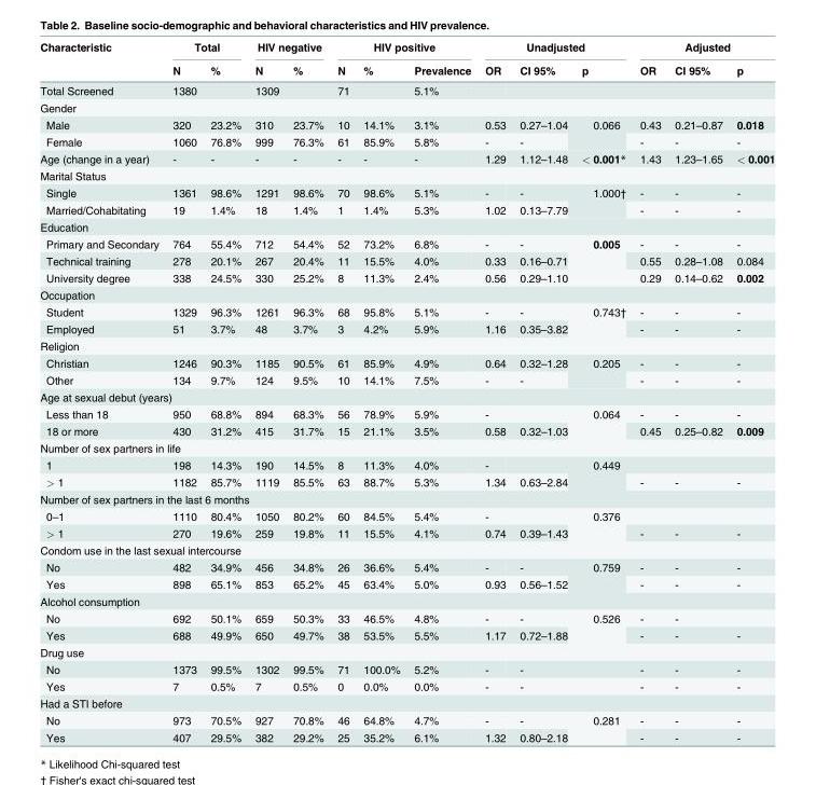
<table><thead><tr><td rowspan="2">Characteristic</td><td colspan="2">Total</td><td colspan="2">HIV negative</td><td colspan="3">HIV positive</td><td colspan="3">Unadjusted</td><td colspan="3">Adjusted</td></tr><tr><td>N</td><td>%</td><td>N</td><td>%</td><td>N</td><td>%</td><td>Prevalence</td><td>OR</td><td>CI 95%</td><td>p</td><td>OR</td><td>CI 95%</td><td>p</td></tr></thead><tbody><tr><td>Total Screened</td><td>1380</td><td></td><td>1309</td><td></td><td>71</td><td></td><td>5.1%</td><td></td><td></td><td></td><td></td><td></td><td></td></tr><tr><td colspan="14">Gender</td></tr><tr><td>Male</td><td>320</td><td>23.2%</td><td>310</td><td>23.7%</td><td>10</td><td>14.1%</td><td>3.1%</td><td>0.53</td><td>0.27–1.04</td><td rowspan="2">0.066</td><td>0.43</td><td>0.21–0.87</td><td>0.018</td></tr><tr><td>Female</td><td>1060</td><td>76.8%</td><td>999</td><td>76.3%</td><td>61</td><td>85.9%</td><td>5.8%</td><td>-</td><td>-</td><td>-</td><td>-</td><td>-</td></tr><tr><td>Age (change in a year)</td><td>-</td><td>-</td><td>-</td><td>-</td><td>-</td><td>-</td><td>-</td><td>1.29</td><td>1.12–1.48</td><td>&lt; 0.001*</td><td>1.43</td><td>1.23–1.65</td><td>&lt; 0.001</td></tr><tr><td colspan="14">Marital Status</td></tr><tr><td>Single</td><td>1361</td><td>98.6%</td><td>1291</td><td>98.6%</td><td>70</td><td>98.6%</td><td>5.1%</td><td>-</td><td>-</td><td rowspan="2">1.000†</td><td>-</td><td>-</td><td>-</td></tr><tr><td>Married/Cohabitating</td><td>19</td><td>1.4%</td><td>18</td><td>1.4%</td><td>1</td><td>1.4%</td><td>5.3%</td><td>1.02</td><td>0.13–7.79</td><td>-</td><td>-</td><td>-</td></tr><tr><td colspan="14">Education</td></tr><tr><td>Primary and Secondary</td><td>764</td><td>55.4%</td><td>712</td><td>54.4%</td><td>52</td><td>73.2%</td><td>6.8%</td><td>-</td><td>-</td><td rowspan="3">0.005</td><td>-</td><td>-</td><td>-</td></tr><tr><td>Technical training</td><td>278</td><td>20.1%</td><td>267</td><td>20.4%</td><td>11</td><td>15.5%</td><td>4.0%</td><td>0.33</td><td>0.16–0.71</td><td>0.55</td><td>0.28–1.08</td><td>0.084</td></tr><tr><td>University degree</td><td>338</td><td>24.5%</td><td>330</td><td>25.2%</td><td>8</td><td>11.3%</td><td>2.4%</td><td>0.56</td><td>0.29–1.10</td><td>0.29</td><td>0.14–0.62</td><td>0.002</td></tr><tr><td colspan="14">Occupation</td></tr><tr><td>Student</td><td>1329</td><td>96.3%</td><td>1261</td><td>96.3%</td><td>68</td><td>95.8%</td><td>5.1%</td><td>-</td><td>-</td><td rowspan="2">0.743†</td><td>-</td><td>-</td><td>-</td></tr><tr><td>Employed</td><td>51</td><td>3.7%</td><td>48</td><td>3.7%</td><td>3</td><td>4.2%</td><td>5.9%</td><td>1.16</td><td>0.35–3.82</td><td>-</td><td>-</td><td>-</td></tr><tr><td colspan="14">Religion</td></tr><tr><td>Christian</td><td>1246</td><td>90.3%</td><td>1185</td><td>90.5%</td><td>61</td><td>85.9%</td><td>4.9%</td><td>0.64</td><td>0.32–1.28</td><td rowspan="2">0.205</td><td>-</td><td>-</td><td>-</td></tr><tr><td>Other</td><td>134</td><td>9.7%</td><td>124</td><td>9.5%</td><td>10</td><td>14.1%</td><td>7.5%</td><td>-</td><td>-</td><td>-</td><td>-</td><td>-</td></tr><tr><td colspan="14">Age at sexual debut (years)</td></tr><tr><td>Less than 18</td><td>950</td><td>68.8%</td><td>894</td><td>68.3%</td><td>56</td><td>78.9%</td><td>5.9%</td><td>-</td><td></td><td rowspan="2">0.064</td><td>-</td><td>-</td><td>-</td></tr><tr><td>18 or more</td><td>430</td><td>31.2%</td><td>415</td><td>31.7%</td><td>15</td><td>21.1%</td><td>3.5%</td><td>0.58</td><td>0.32–1.03</td><td>0.45</td><td>0.25–0.82</td><td>0.009</td></tr><tr><td colspan="14">Number of sex partners in life</td></tr><tr><td>1</td><td>198</td><td>14.3%</td><td>190</td><td>14.5%</td><td>8</td><td>11.3%</td><td>4.0%</td><td>-</td><td></td><td rowspan="2">0.449</td><td></td><td></td><td></td></tr><tr><td>&gt; 1</td><td>1182</td><td>85.7%</td><td>1119</td><td>85.5%</td><td>63</td><td>88.7%</td><td>5.3%</td><td>1.34</td><td>0.63–2.84</td><td>-</td><td>-</td><td>-</td></tr><tr><td colspan="14">Number of sex partners in the last 6 months</td></tr><tr><td>0–1</td><td>1110</td><td>80.4%</td><td>1050</td><td>80.2%</td><td>60</td><td>84.5%</td><td>5.4%</td><td>-</td><td></td><td rowspan="2">0.376</td><td></td><td></td><td></td></tr><tr><td>&gt; 1</td><td>270</td><td>19.6%</td><td>259</td><td>19.8%</td><td>11</td><td>15.5%</td><td>4.1%</td><td>0.74</td><td>0.39–1.43</td><td>-</td><td>-</td><td>-</td></tr><tr><td colspan="14">Condom use in the last sexual intercourse</td></tr><tr><td>No</td><td>482</td><td>34.9%</td><td>456</td><td>34.8%</td><td>26</td><td>36.6%</td><td>5.4%</td><td>-</td><td>-</td><td rowspan="2">0.759</td><td>-</td><td>-</td><td>-</td></tr><tr><td>Yes</td><td>898</td><td>65.1%</td><td>853</td><td>65.2%</td><td>45</td><td>63.4%</td><td>5.0%</td><td>0.93</td><td>0.56–1.52</td><td>-</td><td>-</td><td>-</td></tr><tr><td colspan="14">Alcohol consumption</td></tr><tr><td>No</td><td>692</td><td>50.1%</td><td>659</td><td>50.3%</td><td>33</td><td>46.5%</td><td>4.8%</td><td>-</td><td>-</td><td rowspan="2">0.526</td><td>-</td><td>-</td><td></td></tr><tr><td>Yes</td><td>688</td><td>49.9%</td><td>650</td><td>49.7%</td><td>38</td><td>53.5%</td><td>5.5%</td><td>1.17</td><td>0.72–1.88</td><td>-</td><td>-</td><td>-</td></tr><tr><td colspan="14">Drug use</td></tr><tr><td>No</td><td>1373</td><td>99.5%</td><td>1302</td><td>99.5%</td><td>71</td><td>100.0%</td><td>5.2%</td><td>-</td><td>-</td><td></td><td>-</td><td>-</td><td>-</td></tr><tr><td>Yes</td><td>7</td><td>0.5%</td><td>7</td><td>0.5%</td><td>0</td><td>0.0%</td><td>0.0%</td><td>-</td><td>-</td><td></td><td>-</td><td>-</td><td>-</td></tr><tr><td colspan="14">Had a STI before</td></tr><tr><td>No</td><td>973</td><td>70.5%</td><td>927</td><td>70.8%</td><td>46</td><td>64.8%</td><td>4.7%</td><td>-</td><td>-</td><td rowspan="2">0.281</td><td>-</td><td>-</td><td>-</td></tr><tr><td>Yes</td><td>407</td><td>29.5%</td><td>382</td><td>29.2%</td><td>25</td><td>35.2%</td><td>6.1%</td><td>1.32</td><td>0.80–2.18</td><td>-</td><td>-</td><td>-</td></tr></tbody></table>